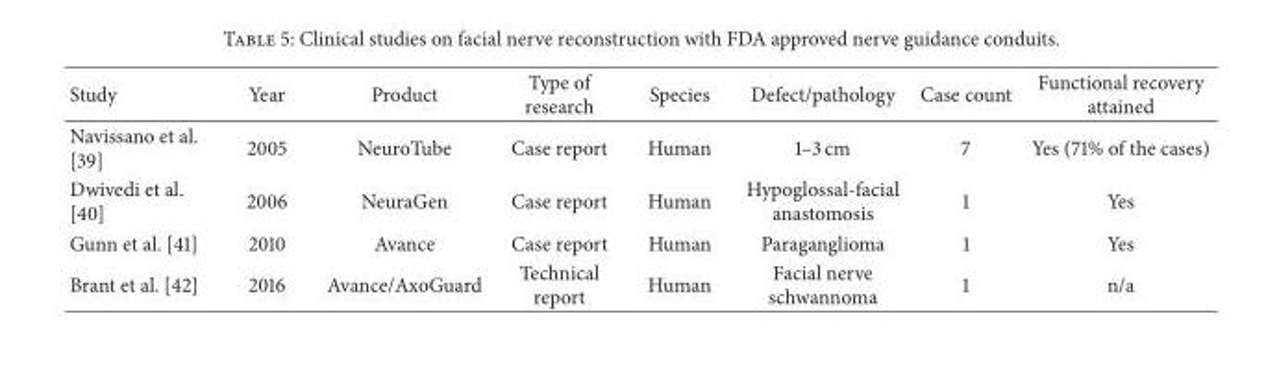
<table><thead><tr><td>Study</td><td>Year</td><td>Product</td><td>Type of research</td><td>Species</td><td>Defect/pathology</td><td>Case count</td><td>Functional recovery attained</td></tr></thead><tbody><tr><td>Navissano et al. [39]</td><td>2005</td><td>NeuroTube</td><td>Case report</td><td>Human</td><td>1–3 cm</td><td>7</td><td>Yes (71% of the cases)</td></tr><tr><td>Dwivedi et al. [40]</td><td>2006</td><td>NeuraGen</td><td>Case report</td><td>Human</td><td>Hypoglossal-facial anastomosis</td><td>1</td><td>Yes</td></tr><tr><td>Gunn et al. [41]</td><td>2010</td><td>Avance</td><td>Case report</td><td>Human</td><td>Paraganglioma</td><td>1</td><td>Yes</td></tr><tr><td>Brant et al. [42]</td><td>2016</td><td>Avance/AxoGuard</td><td>Technical report</td><td>Human</td><td>Facial nerve schwannoma</td><td>1</td><td>n/a</td></tr></tbody></table>